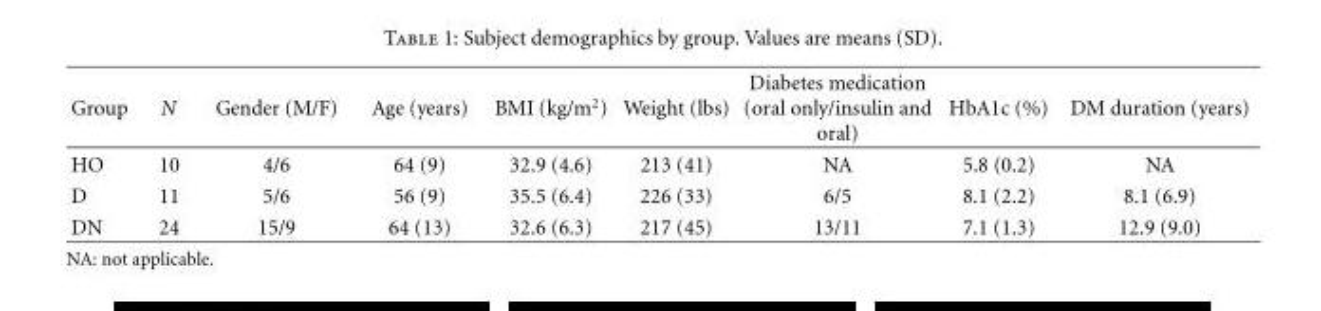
<table><thead><tr><td>Group</td><td>N</td><td>Gender (M/F)</td><td>Age (years)</td><td>BMI (kg/m<sup>2</sup>)</td><td>Weight (lbs)</td><td>Diabetes medication (oral only/insulin and oral)</td><td>HbA1c (%)</td><td>DM duration (years)</td></tr></thead><tbody><tr><td>HO</td><td>10</td><td>4/6</td><td>64 (9)</td><td>32.9 (4.6)</td><td>213 (41)</td><td>NA</td><td>5.8 (0.2)</td><td>NA</td></tr><tr><td>D</td><td>11</td><td>5/6</td><td>56 (9)</td><td>35.5 (6.4)</td><td>226 (33)</td><td>6/5</td><td>8.1 (2.2)</td><td>8.1 (6.9)</td></tr><tr><td>DN</td><td>24</td><td>15/9</td><td>64 (13)</td><td>32.6 (6.3)</td><td>217 (45)</td><td>13/11</td><td>7.1 (1.3)</td><td>12.9 (9.0)</td></tr></tbody></table>